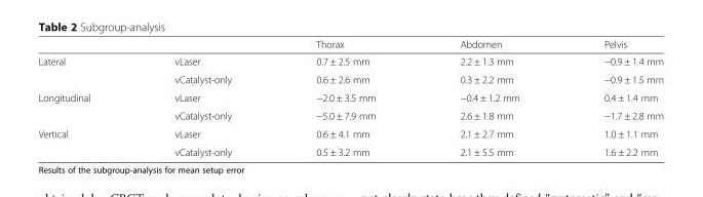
<table><thead><tr><td></td><td></td><td>Thorax</td><td>Abdomen</td><td>Pelvis</td></tr></thead><tbody><tr><td rowspan="2">Lateral</td><td>vLaser</td><td>0.7 ± 2.5 mm</td><td>2.2 ± 1.3 mm</td><td>−0.9 ± 1.4 mm</td></tr><tr><td>vCatalyst-only</td><td>0.6 ± 2.6 mm</td><td>0.3 ± 2.2 mm</td><td>−0.9 ± 1.5 mm</td></tr><tr><td rowspan="2">Longitudinal</td><td>vLaser</td><td>−2.0 ± 3.5 mm</td><td>−0.4 ± 1.2 mm</td><td>0.4 ± 1.4 mm</td></tr><tr><td>vCatalyst-only</td><td>−5.0 ± 7.9 mm</td><td>2.6 ± 1.8 mm</td><td>−1.7 ± 2.8 mm</td></tr><tr><td rowspan="2">Vertical</td><td>vLaser</td><td>0.6 ± 4.1 mm</td><td>2.1 ± 2.7 mm</td><td>1.0 ± 1.1 mm</td></tr><tr><td>vCatalyst-only</td><td>0.5 ± 3.2 mm</td><td>2.1 ± 5.5 mm</td><td>1.6 ± 2.2 mm</td></tr></tbody></table>